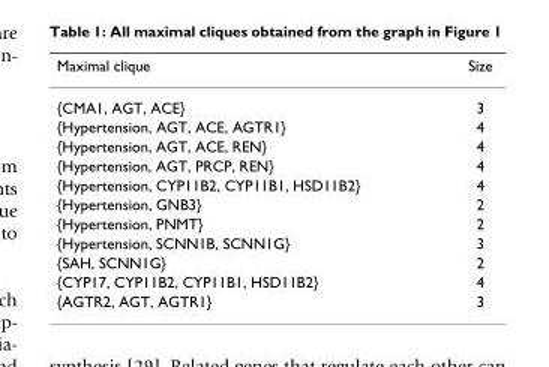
<table><thead><tr><td>Maximal clique</td><td>Size</td></tr></thead><tbody><tr><td>{CMA1, AGT, ACE}</td><td>3</td></tr><tr><td>{Hypertension, AGT, ACE, AGTR1}</td><td>4</td></tr><tr><td>{Hypertension, AGT, ACE, REN}</td><td>4</td></tr><tr><td>{Hypertension, AGT, PRCP, REN}</td><td>4</td></tr><tr><td>{Hypertension, CYP11B2, CYP11B1, HSD11B2}</td><td>4</td></tr><tr><td>{Hypertension, GNB3}</td><td>2</td></tr><tr><td>{Hypertension, PNMT}</td><td>2</td></tr><tr><td>{Hypertension, SCNN1B, SCNN1G}</td><td>3</td></tr><tr><td>{SAH, SCNN1G}</td><td>2</td></tr><tr><td>{CYP17, CYP11B2, CYP11B1, HSD11B2}</td><td>4</td></tr><tr><td>{AGTR2, AGT, AGTR1}</td><td>3</td></tr></tbody></table>